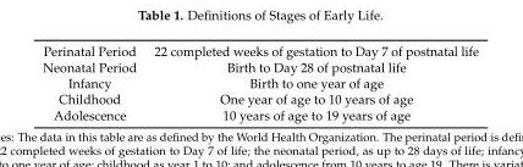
<table><tbody><tr><td>Perinatal Period</td><td>22 completed weeks of gestation to Day 7 of postnatal life</td></tr><tr><td>Neonatal Period</td><td>Birth to Day 28 of postnatal life</td></tr><tr><td>Infancy</td><td>Birth to one year of age</td></tr><tr><td>Childhood</td><td>One year of age to 10 years of age</td></tr><tr><td>Adolescence</td><td>10 years of age to 19 years of age</td></tr></tbody></table>